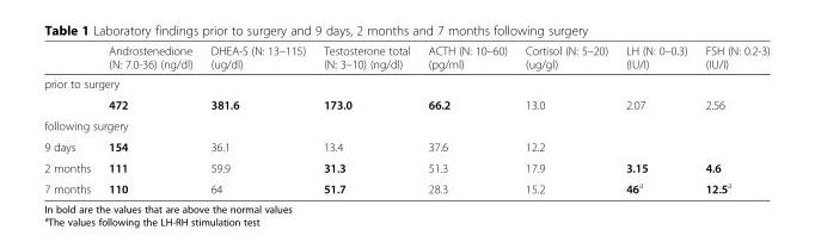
<table><thead><tr><td></td><td>Androstenedione (N: 7.0-36) (ng/dl)</td><td>DHEA-S (N: 13–115) (ug/dl)</td><td>Testosterone total (N: 3–10) (ng/dl)</td><td>ACTH (N: 10–60) (pg/ml)</td><td>Cortisol (N: 5–20) (ug/gl)</td><td>LH (N: 0–0.3) (IU/I)</td><td>FSH (N: 0.2-3) (IU/I)</td></tr></thead><tbody><tr><td colspan="8">prior to surgery</td></tr><tr><td></td><td>472</td><td>381.6</td><td>173.0</td><td>66.2</td><td>13.0</td><td>2.07</td><td>2.56</td></tr><tr><td colspan="8">following surgery</td></tr><tr><td>9 days</td><td>154</td><td>36.1</td><td>13.4</td><td>37.6</td><td>12.2</td><td></td><td></td></tr><tr><td>2 months</td><td>111</td><td>59.9</td><td>31.3</td><td>51.3</td><td>17.9</td><td>3.15</td><td>4.6</td></tr><tr><td>7 months</td><td>110</td><td>64</td><td>51.7</td><td>28.3</td><td>15.2</td><td>46<sup>a</sup></td><td>12.5<sup>a</sup></td></tr></tbody></table>